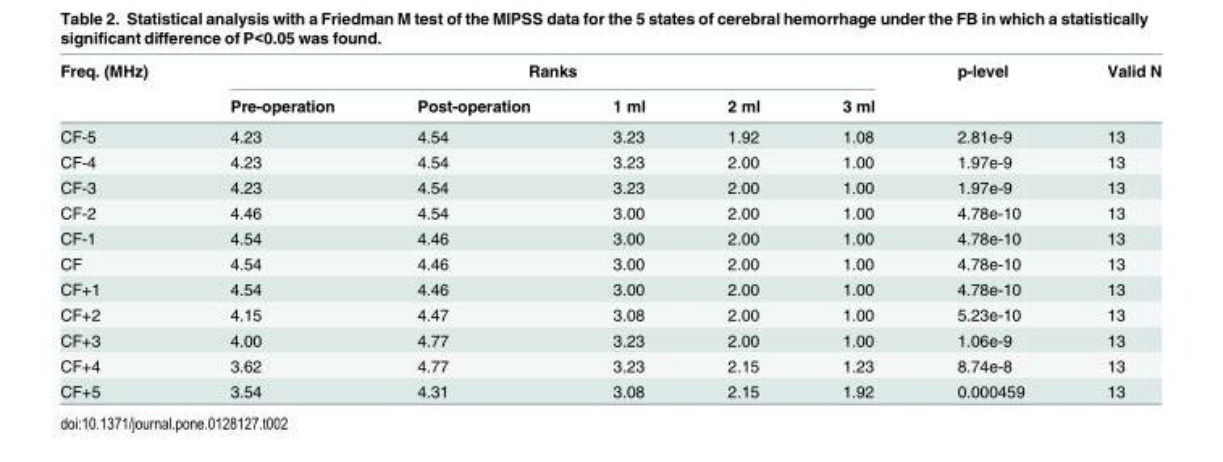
<table><thead><tr><td rowspan="2">Freq. (MHz)</td><td colspan="5">Ranks</td><td rowspan="2">p-level</td><td rowspan="2">Valid N</td></tr><tr><td>Pre-operation</td><td>Post-operation</td><td>1 ml</td><td>2 ml</td><td>3 ml</td></tr></thead><tbody><tr><td>CF-5</td><td>4.23</td><td>4.54</td><td>3.23</td><td>1.92</td><td>1.08</td><td>2.81e-9</td><td>13</td></tr><tr><td>CF-4</td><td>4.23</td><td>4.54</td><td>3.23</td><td>2.00</td><td>1.00</td><td>1.97e-9</td><td>13</td></tr><tr><td>CF-3</td><td>4.23</td><td>4.54</td><td>3.23</td><td>2.00</td><td>1.00</td><td>1.97e-9</td><td>13</td></tr><tr><td>CF-2</td><td>4.46</td><td>4.54</td><td>3.00</td><td>2.00</td><td>1.00</td><td>4.78e-10</td><td>13</td></tr><tr><td>CF-1</td><td>4.54</td><td>4.46</td><td>3.00</td><td>2.00</td><td>1.00</td><td>4.78e-10</td><td>13</td></tr><tr><td>CF</td><td>4.54</td><td>4.46</td><td>3.00</td><td>2.00</td><td>1.00</td><td>4.78e-10</td><td>13</td></tr><tr><td>CF+1</td><td>4.54</td><td>4.46</td><td>3.00</td><td>2.00</td><td>1.00</td><td>4.78e-10</td><td>13</td></tr><tr><td>CF+2</td><td>4.15</td><td>4.47</td><td>3.08</td><td>2.00</td><td>1.00</td><td>5.23e-10</td><td>13</td></tr><tr><td>CF+3</td><td>4.00</td><td>4.77</td><td>3.23</td><td>2.00</td><td>1.00</td><td>1.06e-9</td><td>13</td></tr><tr><td>CF+4</td><td>3.62</td><td>4.77</td><td>3.23</td><td>2.15</td><td>1.23</td><td>8.74e-8</td><td>13</td></tr><tr><td>CF+5</td><td>3.54</td><td>4.31</td><td>3.08</td><td>2.15</td><td>1.92</td><td>0.000459</td><td>13</td></tr></tbody></table>